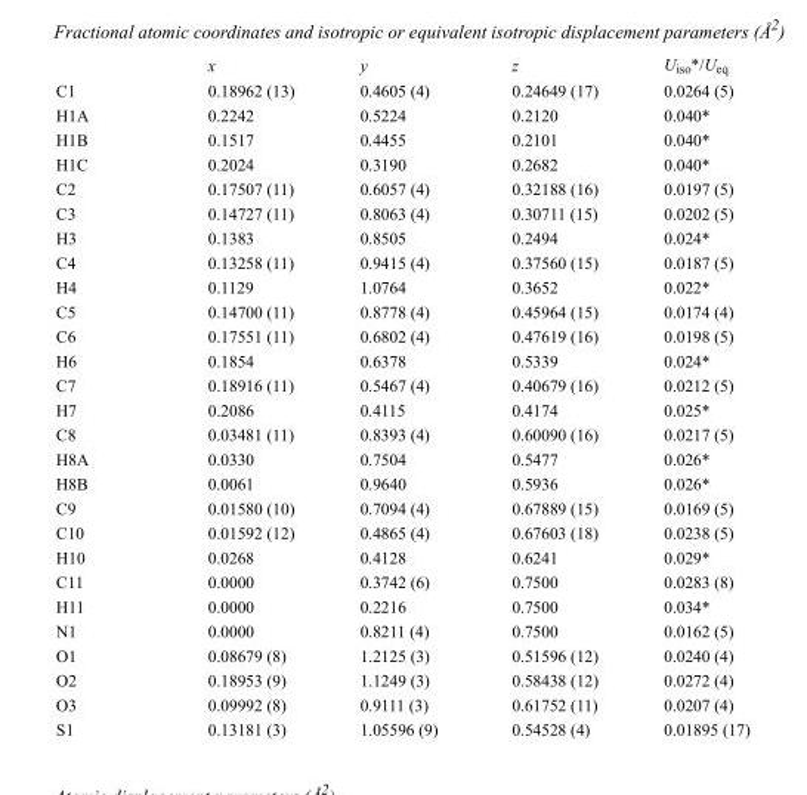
<table><thead><tr><td></td><td>x</td><td>y</td><td>z</td><td>U<sub>iso</sub>*/U<sub>eq</sub></td></tr></thead><tbody><tr><td>C1</td><td>0.18962 (13)</td><td>0.4605 (4)</td><td>0.24649 (17)</td><td>0.0264 (5)</td></tr><tr><td>H1A</td><td>0.2242</td><td>0.5224</td><td>0.2120</td><td>0.040*</td></tr><tr><td>H1B</td><td>0.1517</td><td>0.4455</td><td>0.2101</td><td>0.040*</td></tr><tr><td>H1C</td><td>0.2024</td><td>0.3190</td><td>0.2682</td><td>0.040*</td></tr><tr><td>C2</td><td>0.17507 (11)</td><td>0.6057 (4)</td><td>0.32188 (16)</td><td>0.0197 (5)</td></tr><tr><td>C3</td><td>0.14727 (11)</td><td>0.8063 (4)</td><td>0.30711 (15)</td><td>0.0202 (5)</td></tr><tr><td>H3</td><td>0.1383</td><td>0.8505</td><td>0.2494</td><td>0.024*</td></tr><tr><td>C4</td><td>0.13258 (11)</td><td>0.9415 (4)</td><td>0.37560 (15)</td><td>0.0187 (5)</td></tr><tr><td>H4</td><td>0.1129</td><td>1.0764</td><td>0.3652</td><td>0.022*</td></tr><tr><td>C5</td><td>0.14700 (11)</td><td>0.8778 (4)</td><td>0.45964 (15)</td><td>0.0174 (4)</td></tr><tr><td>C6</td><td>0.17551 (11)</td><td>0.6802 (4)</td><td>0.47619 (16)</td><td>0.0198 (5)</td></tr><tr><td>H6</td><td>0.1854</td><td>0.6378</td><td>0.5339</td><td>0.024*</td></tr><tr><td>C7</td><td>0.18916 (11)</td><td>0.5467 (4)</td><td>0.40679 (16)</td><td>0.0212 (5)</td></tr><tr><td>H7</td><td>0.2086</td><td>0.4115</td><td>0.4174</td><td>0.025*</td></tr><tr><td>C8</td><td>0.03481 (11)</td><td>0.8393 (4)</td><td>0.60090 (16)</td><td>0.0217 (5)</td></tr><tr><td>H8A</td><td>0.0330</td><td>0.7504</td><td>0.5477</td><td>0.026*</td></tr><tr><td>H8B</td><td>0.0061</td><td>0.9640</td><td>0.5936</td><td>0.026*</td></tr><tr><td>C9</td><td>0.01580 (10)</td><td>0.7094 (4)</td><td>0.67889 (15)</td><td>0.0169 (5)</td></tr><tr><td>C10</td><td>0.01592 (12)</td><td>0.4865 (4)</td><td>0.67603 (18)</td><td>0.0238 (5)</td></tr><tr><td>H10</td><td>0.0268</td><td>0.4128</td><td>0.6241</td><td>0.029*</td></tr><tr><td>C11</td><td>0.0000</td><td>0.3742 (6)</td><td>0.7500</td><td>0.0283 (8)</td></tr><tr><td>H11</td><td>0.0000</td><td>0.2216</td><td>0.7500</td><td>0.034*</td></tr><tr><td>N1</td><td>0.0000</td><td>0.8211 (4)</td><td>0.7500</td><td>0.0162 (5)</td></tr><tr><td>O1</td><td>0.08679 (8)</td><td>1.2125 (3)</td><td>0.51596 (12)</td><td>0.0240 (4)</td></tr><tr><td>O2</td><td>0.18953 (9)</td><td>1.1249 (3)</td><td>0.58438 (12)</td><td>0.0272 (4)</td></tr><tr><td>O3</td><td>0.09992 (8)</td><td>0.9111 (3)</td><td>0.61752 (11)</td><td>0.0207 (4)</td></tr><tr><td>S1</td><td>0.13181 (3)</td><td>1.05596 (9)</td><td>0.54528 (4)</td><td>0.01895 (17)</td></tr></tbody></table>